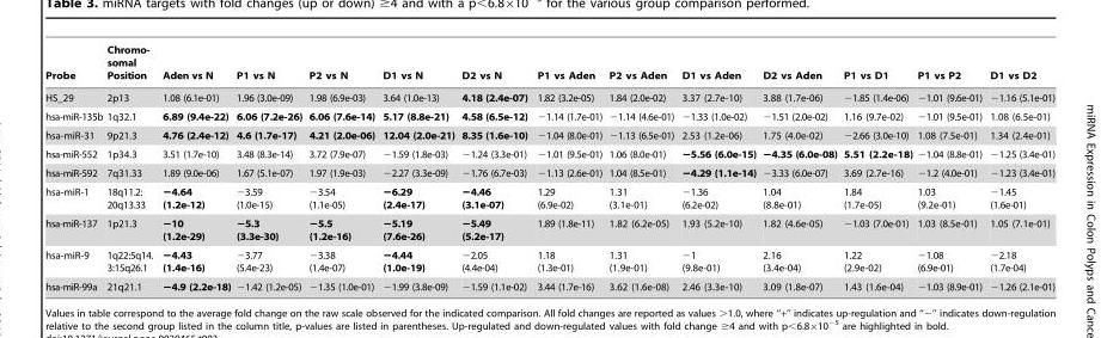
<table><thead><tr><td>Probe</td><td>Chromo- somal Position</td><td>Aden vs N</td><td>P1 vs N</td><td>P2 vs N</td><td>D1 vs N</td><td>D2 vs N</td><td>P1 vs Aden</td><td>P2 vs Aden</td><td>D1 vs Aden</td><td>D2 vs Aden</td><td>P1 vs D1</td><td>P1 vs P2</td><td>D1 vs D2</td></tr></thead><tbody><tr><td>HS_29</td><td>2p13</td><td>1.08 (6.1e-01)</td><td>1.96 (3.0e-09)</td><td>1.98 (6.9e-03)</td><td>3.64 (1.0e-13)</td><td>4.18 (2.4e-07)</td><td>1.82 (3.2e-05)</td><td>1.84 (2.0e-02)</td><td>3.37 (2.7e-10)</td><td>3.88 (1.7e-06)</td><td>−1.85 (1.4e-06)</td><td>−1.01 (9.6e-01)</td><td>−1.16 (5.1e-01)</td></tr><tr><td>hsa-miR-135b</td><td>1q32.1</td><td>6.89 (9.4e-22)</td><td>6.06 (7.2e-26)</td><td>6.06 (7.6e-14)</td><td>5.17 (8.8e-21)</td><td>4.58 (6.5e-12)</td><td>−1.14 (1.7e-01)</td><td>−1.14 (4.6e-01)</td><td>−1.33 (1.0e-02)</td><td>−1.51 (2.0e-02)</td><td>1.16 (9.7e-02)</td><td>−1.01 (9.5e-01)</td><td>1.08 (6.5e-01)</td></tr><tr><td>hsa-miR-31</td><td>9p21.3</td><td>4.76 (2.4e-12)</td><td>4.6 (1.7e-17)</td><td>4.21 (2.0e-06)</td><td>12.04 (2.0e-21)</td><td>8.35 (1.6e-10)</td><td>−1.04 (8.0e-01)</td><td>−1.13 (6.5e-01)</td><td>2.53 (1.2e-06)</td><td>1.75 (4.0e-02)</td><td>−2.66 (3.0e-10)</td><td>1.08 (7.5e-01)</td><td>1.34 (2.4e-01)</td></tr><tr><td>hsa-miR-552</td><td>1p34.3</td><td>3.51 (1.7e-10)</td><td>3.48 (8.3e-14)</td><td>3.72 (7.9e-07)</td><td>−1.59 (1.8e-03)</td><td>−1.24 (3.3e-01)</td><td>−1.01 (9.5e-01)</td><td>1.06 (8.0e-01)</td><td>−5.56 (6.0e-15)</td><td>−4.35 (6.0e-08)</td><td>5.51 (2.2e-18)</td><td>−1.04 (8.8e-01)</td><td>−1.25 (3.4e-01)</td></tr><tr><td>hsa-miR-592</td><td>7q31.33</td><td>1.89 (9.0e-06)</td><td>1.67 (5.1e-07)</td><td>1.97 (1.9e-03)</td><td>−2.27 (3.3e-09)</td><td>−1.76 (6.7e-03)</td><td>−1.13 (2.6e-01)</td><td>1.04 (8.5e-01)</td><td>−4.29 (1.1e-14)</td><td>−3.33 (6.0e-07)</td><td>3.69 (2.7e-16)</td><td>−1.2 (4.0e-01)</td><td>−1.23 (3.4e-01)</td></tr><tr><td>hsa-miR-1</td><td>18q11.2: 20q13.33</td><td>−4.64 (1.2e-12)</td><td>−3.59 (1.0e-15)</td><td>−3.54 (1.1e-05)</td><td>−6.29 (2.4e-17)</td><td>−4.46 (3.1e-07)</td><td>1.29 (6.9e-02)</td><td>1.31 (3.1e-01)</td><td>−1.36 (6.2e-02)</td><td>1.04 (8.8e-01)</td><td>1.84 (1.7e-05)</td><td>1.03 (9.2e-01)</td><td>−1.45 (1.6e-01)</td></tr><tr><td>hsa-miR-137</td><td>1p21.3</td><td>−10 (1.2e-29)</td><td>−5.3 (3.3e-30)</td><td>−5.5 (1.2e-16)</td><td>−5.19 (7.6e-26)</td><td>−5.49 (5.2e-17)</td><td>1.89 (1.8e-11)</td><td>1.82 (6.2e-05)</td><td>1.93 (5.2e-10)</td><td>1.82 (4.6e-05)</td><td>−1.03 (7.0e-01)</td><td>1.03 (8.5e-01)</td><td>1.05 (7.1e-01)</td></tr><tr><td>hsa-miR-9</td><td>1q22:5q14. 3:15q26.1</td><td>−4.43 (1.4e-16)</td><td>−3.77 (5.4e-23)</td><td>−3.38 (1.4e-07)</td><td>−4.44 (1.0e-19)</td><td>−2.05 (4.4e-04)</td><td>1.18 (1.3e-01)</td><td>1.31 (1.9e-01)</td><td>−1 (9.8e-01)</td><td>2.16 (3.4e-04)</td><td>1.22 (2.9e-02)</td><td>−1.08 (6.9e-01)</td><td>−2.18 (1.7e-04)</td></tr><tr><td>hsa-miR-99a</td><td>21q21.1</td><td>−4.9 (2.2e-18)</td><td>−1.42 (1.2e-05)</td><td>−1.35 (1.0e-01)</td><td>−1.99 (3.8e-09)</td><td>−1.59 (1.1e-02)</td><td>3.44 (1.7e-16)</td><td>3.62 (1.6e-08)</td><td>2.46 (3.3e-10)</td><td>3.09 (1.8e-07)</td><td>1.43 (1.6e-04)</td><td>−1.03 (8.9e-01)</td><td>−1.26 (2.1e-01)</td></tr></tbody></table>